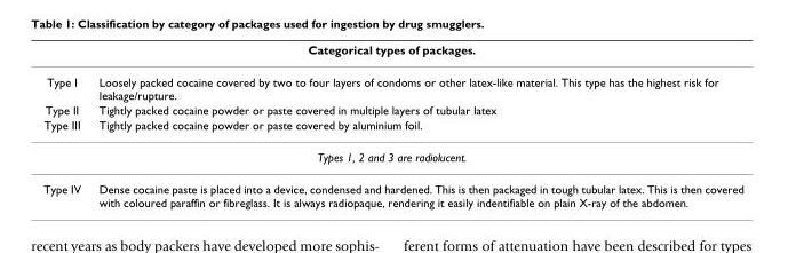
<table><thead><tr><td colspan="2">Categorical types of packages.</td></tr><tr><td>Type I</td><td>Loosely packed cocaine covered by two to four layers of condoms or other latex-like material. This type has the highest risk for leakage/rupture.</td></tr></thead><tbody><tr><td>Type II</td><td>Tightly packed cocaine powder or paste covered in multiple layers of tubular latex</td></tr><tr><td>Type III</td><td>Tightly packed cocaine powder or paste covered by aluminium foil.</td></tr><tr><td colspan="2">Types 1, 2 and 3 are radiolucent.</td></tr><tr><td>Type IV</td><td>Dense cocaine paste is placed into a device, condensed and hardened. This is then packaged in tough tubular latex. This is then covered with coloured paraffin or fibreglass. It is always radiopaque, rendering it easily indentifiable on plain X-ray of the abdomen.</td></tr></tbody></table>